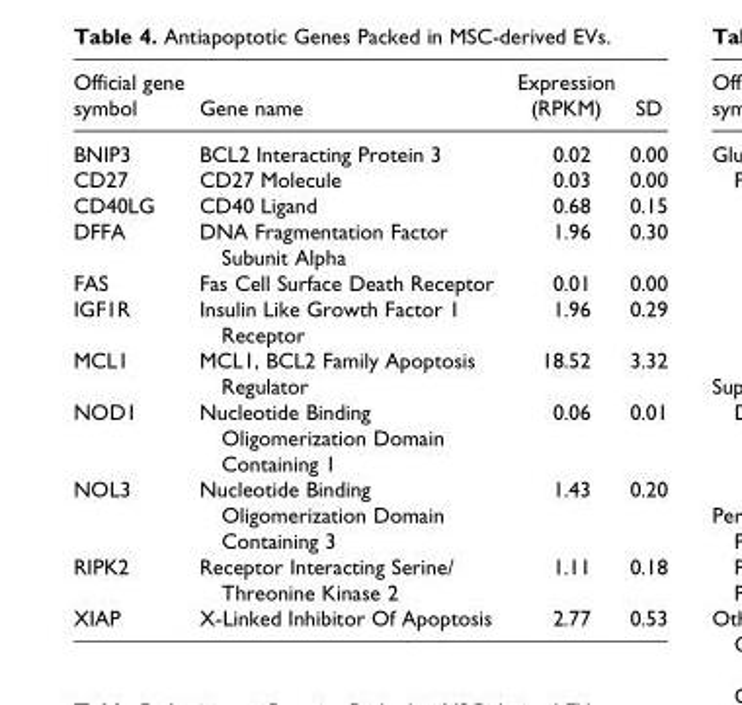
<table><thead><tr><td>Official gene symbol</td><td>Gene name</td><td>Expression (RPKM)</td><td>SD</td></tr></thead><tbody><tr><td>BNIP3</td><td>BCL2 Interacting Protein 3</td><td>0.02</td><td>0.00</td></tr><tr><td>CD27</td><td>CD27 Molecule</td><td>0.03</td><td>0.00</td></tr><tr><td>CD40LG</td><td>CD40 Ligand</td><td>0.68</td><td>0.15</td></tr><tr><td>DFFA</td><td>DNA Fragmentation Factor Subunit Alpha</td><td>1.96</td><td>0.30</td></tr><tr><td>FAS</td><td>Fas Cell Surface Death Receptor</td><td>0.01</td><td>0.00</td></tr><tr><td>IGF1R</td><td>Insulin Like Growth Factor 1 Receptor</td><td>1.96</td><td>0.29</td></tr><tr><td>MCL1</td><td>MCL1, BCL2 Family Apoptosis Regulator</td><td>18.52</td><td>3.32</td></tr><tr><td>NOD1</td><td>Nucleotide Binding Oligomerization Domain Containing 1</td><td>0.06</td><td>0.01</td></tr><tr><td>NOL3</td><td>Nucleotide Binding Oligomerization Domain Containing 3</td><td>1.43</td><td>0.20</td></tr><tr><td>RIPK2</td><td>Receptor Interacting Serine/ Threonine Kinase 2</td><td>1.11</td><td>0.18</td></tr><tr><td>XIAP</td><td>X-Linked Inhibitor Of Apoptosis</td><td>2.77</td><td>0.53</td></tr></tbody></table>